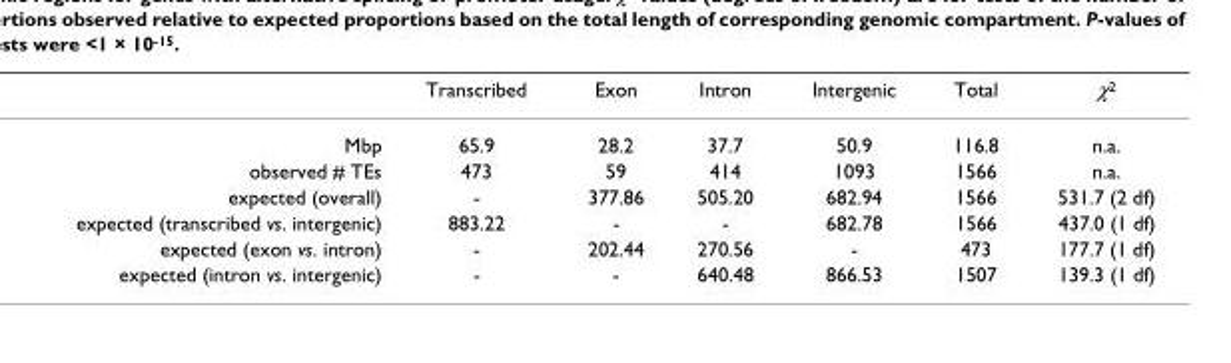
<table><thead><tr><td></td><td>Transcribed</td><td>Exon</td><td>Intron</td><td>Intergenic</td><td>Total</td><td>χ2</td></tr></thead><tbody><tr><td>Mbp</td><td>65.9</td><td>28.2</td><td>37.7</td><td>50.9</td><td>116.8</td><td>n.a.</td></tr><tr><td>observed # TEs</td><td>473</td><td>59</td><td>414</td><td>1093</td><td>1566</td><td>n.a.</td></tr><tr><td>expected (overall)</td><td>-</td><td>377.86</td><td>505.20</td><td>682.94</td><td>1566</td><td>531.7 (2 df)</td></tr><tr><td>expected (transcribed vs. intergenic)</td><td>883.22</td><td>-</td><td>-</td><td>682.78</td><td>1566</td><td>437.0 (1 df)</td></tr><tr><td>expected (exon vs. intron)</td><td>-</td><td>202.44</td><td>270.56</td><td>-</td><td>473</td><td>177.7 (1 df)</td></tr><tr><td>expected (intron vs. intergenic)</td><td>-</td><td>-</td><td>640.48</td><td>866.53</td><td>1507</td><td>139.3 (1 df)</td></tr></tbody></table>